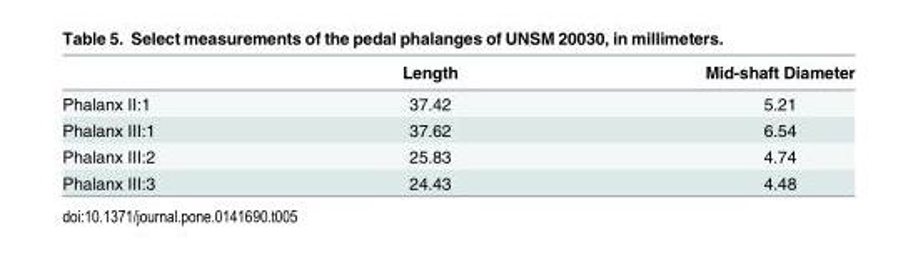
<table><thead><tr><td></td><td>Length</td><td>Mid-shaft Diameter</td></tr></thead><tbody><tr><td>Phalanx II:1</td><td>37.42</td><td>5.21</td></tr><tr><td>Phalanx III:1</td><td>37.62</td><td>6.54</td></tr><tr><td>Phalanx III:2</td><td>25.83</td><td>4.74</td></tr><tr><td>Phalanx III:3</td><td>24.43</td><td>4.48</td></tr></tbody></table>